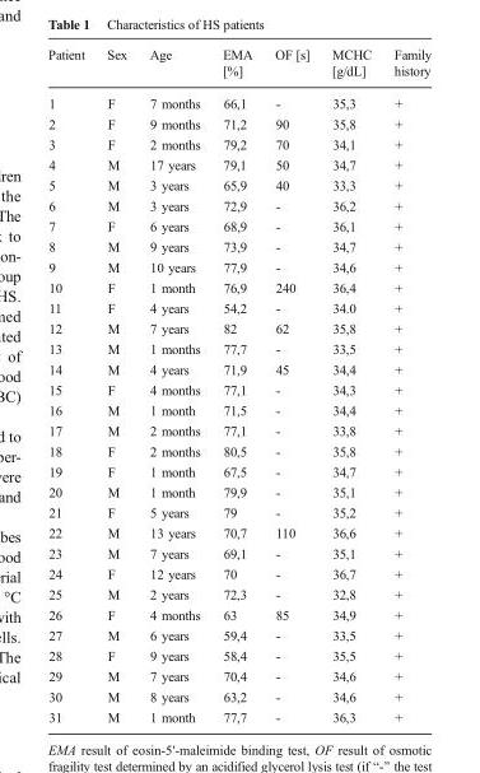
<table><thead><tr><td>Patient</td><td>Sex</td><td>Age</td><td>EMA [%]</td><td>OF [s]</td><td>MCHC [g/dL]</td><td>Family history</td></tr></thead><tbody><tr><td>1</td><td>F</td><td>7 months</td><td>66,1</td><td>-</td><td>35,3</td><td>+</td></tr><tr><td>2</td><td>F</td><td>9 months</td><td>71,2</td><td>90</td><td>35,8</td><td>+</td></tr><tr><td>3</td><td>F</td><td>2 months</td><td>79,2</td><td>70</td><td>34,1</td><td>+</td></tr><tr><td>4</td><td>M</td><td>17 years</td><td>79,1</td><td>50</td><td>34,7</td><td>+</td></tr><tr><td>5</td><td>M</td><td>3 years</td><td>65,9</td><td>40</td><td>33,3</td><td>+</td></tr><tr><td>6</td><td>M</td><td>3 years</td><td>72,9</td><td>-</td><td>36,2</td><td>+</td></tr><tr><td>7</td><td>F</td><td>6 years</td><td>68,9</td><td>-</td><td>36,1</td><td>+</td></tr><tr><td>8</td><td>M</td><td>9 years</td><td>73,9</td><td>-</td><td>34,7</td><td>+</td></tr><tr><td>9</td><td>M</td><td>10 years</td><td>77,9</td><td>-</td><td>34,6</td><td>+</td></tr><tr><td>10</td><td>F</td><td>1 month</td><td>76,9</td><td>240</td><td>36,4</td><td>+</td></tr><tr><td>11</td><td>F</td><td>4 years</td><td>54,2</td><td>-</td><td>34.0</td><td>+</td></tr><tr><td>12</td><td>M</td><td>7 years</td><td>82</td><td>62</td><td>35,8</td><td>+</td></tr><tr><td>13</td><td>M</td><td>1 months</td><td>77,7</td><td>-</td><td>33,5</td><td>+</td></tr><tr><td>14</td><td>M</td><td>4 years</td><td>71,9</td><td>45</td><td>34,4</td><td>+</td></tr><tr><td>15</td><td>F</td><td>4 months</td><td>77,1</td><td>-</td><td>34,3</td><td>+</td></tr><tr><td>16</td><td>M</td><td>1 month</td><td>71,5</td><td>-</td><td>34,4</td><td>+</td></tr><tr><td>17</td><td>M</td><td>2 months</td><td>77,1</td><td>-</td><td>33,8</td><td>+</td></tr><tr><td>18</td><td>F</td><td>2 months</td><td>80,5</td><td>-</td><td>35,8</td><td>+</td></tr><tr><td>19</td><td>F</td><td>1 month</td><td>67,5</td><td>-</td><td>34,7</td><td>+</td></tr><tr><td>20</td><td>M</td><td>1 month</td><td>79,9</td><td>-</td><td>35,1</td><td>+</td></tr><tr><td>21</td><td>F</td><td>5 years</td><td>79</td><td>-</td><td>35,2</td><td>+</td></tr><tr><td>22</td><td>M</td><td>13 years</td><td>70,7</td><td>110</td><td>36,6</td><td>+</td></tr><tr><td>23</td><td>M</td><td>7 years</td><td>69,1</td><td>-</td><td>35,1</td><td>+</td></tr><tr><td>24</td><td>F</td><td>12 years</td><td>70</td><td>-</td><td>36,7</td><td>+</td></tr><tr><td>25</td><td>M</td><td>2 years</td><td>72,3</td><td>-</td><td>32,8</td><td>+</td></tr><tr><td>26</td><td>F</td><td>4 months</td><td>63</td><td>85</td><td>34,9</td><td>+</td></tr><tr><td>27</td><td>M</td><td>6 years</td><td>59,4</td><td>-</td><td>33,5</td><td>+</td></tr><tr><td>28</td><td>F</td><td>9 years</td><td>58,4</td><td>-</td><td>35,5</td><td>+</td></tr><tr><td>29</td><td>M</td><td>7 years</td><td>70,4</td><td>-</td><td>34,6</td><td>+</td></tr><tr><td>30</td><td>M</td><td>8 years</td><td>63,2</td><td>-</td><td>34,6</td><td>+</td></tr><tr><td>31</td><td>M</td><td>1 month</td><td>77,7</td><td>-</td><td>36,3</td><td>+</td></tr></tbody></table>